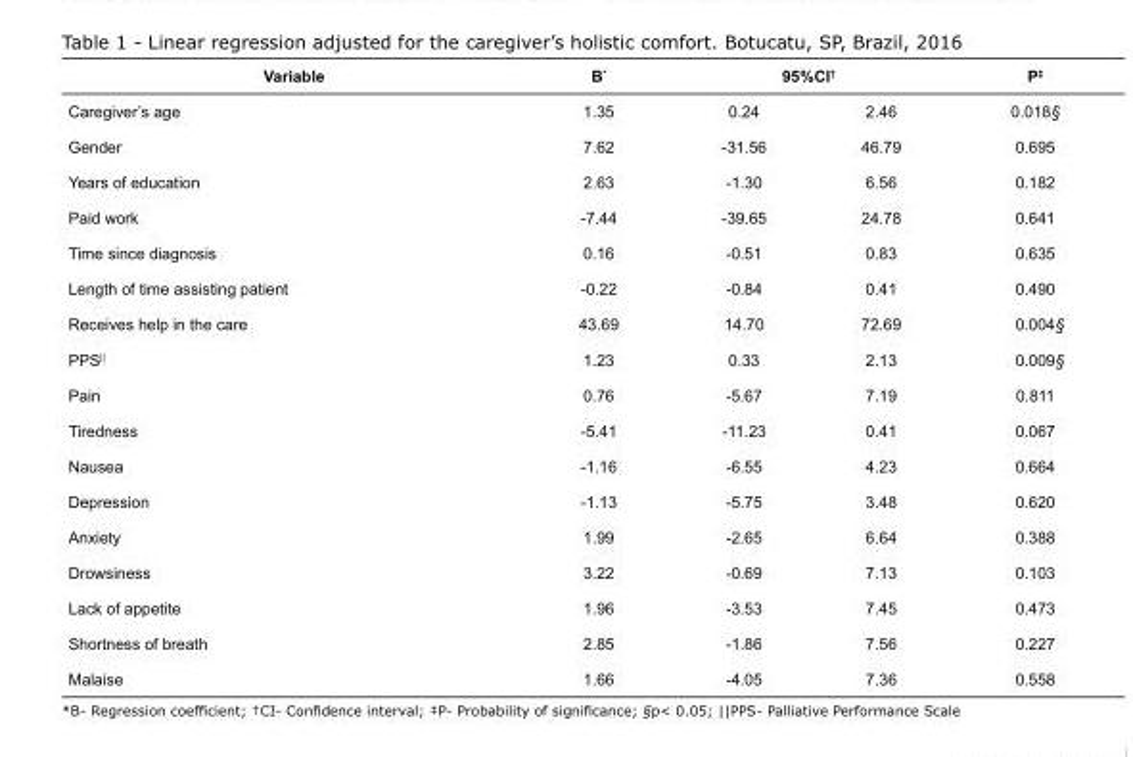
<table><tbody><tr><td>Variable</td><td>B*</td><td colspan="2">95%CI<sup>†</sup></td><td>P<sup>‡</sup></td></tr><tr><td>Caregiver’s age</td><td>1.35</td><td>0.24</td><td>2.46</td><td>0.018§</td></tr><tr><td>Gender</td><td>7.62</td><td>-31.56</td><td>46.79</td><td>0.695</td></tr><tr><td>Years of education</td><td>2.63</td><td>-1.30</td><td>6.56</td><td>0.182</td></tr><tr><td>Paid work</td><td>-7.44</td><td>-39.65</td><td>24.78</td><td>0.641</td></tr><tr><td>Time since diagnosis</td><td>0.16</td><td>-0.51</td><td>0.83</td><td>0.635</td></tr><tr><td>Length of time assisting patient</td><td>-0.22</td><td>-0.84</td><td>0.41</td><td>0.490</td></tr><tr><td>Receives help in the care</td><td>43.69</td><td>14.70</td><td>72.69</td><td>0.004§</td></tr><tr><td>PPS<sup>||</sup></td><td>1.23</td><td>0.33</td><td>2.13</td><td>0.009§</td></tr><tr><td>Pain</td><td>0.76</td><td>-5.67</td><td>7.19</td><td>0.811</td></tr><tr><td>Tiredness</td><td>-5.41</td><td>-11.23</td><td>0.41</td><td>0.067</td></tr><tr><td>Nausea</td><td>-1.16</td><td>-6.55</td><td>4.23</td><td>0.664</td></tr><tr><td>Depression</td><td>-1.13</td><td>-5.75</td><td>3.48</td><td>0.620</td></tr><tr><td>Anxiety</td><td>1.99</td><td>-2.65</td><td>6.64</td><td>0.388</td></tr><tr><td>Drowsiness</td><td>3.22</td><td>-0.69</td><td>7.13</td><td>0.103</td></tr><tr><td>Lack of appetite</td><td>1.96</td><td>-3.53</td><td>7.45</td><td>0.473</td></tr><tr><td>Shortness of breath</td><td>2.85</td><td>-1.86</td><td>7.56</td><td>0.227</td></tr><tr><td>Malaise</td><td>1.66</td><td>-4.05</td><td>7.36</td><td>0.558</td></tr></tbody></table>